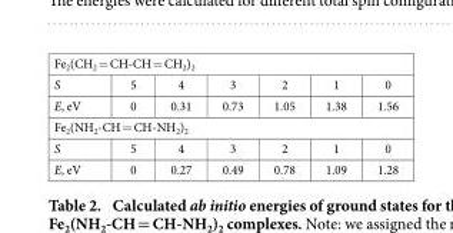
<table><tbody><tr><td colspan="7">Fe<sub>2</sub>(CH<sub>2</sub> = CH-CH = CH<sub>2</sub>)<sub>2</sub></td></tr><tr><td>S</td><td>5</td><td>4</td><td>3</td><td>2</td><td>1</td><td>0</td></tr><tr><td>E, eV</td><td>0</td><td>0.31</td><td>0.73</td><td>1.05</td><td>1.38</td><td>1.56</td></tr><tr><td colspan="7">Fe<sub>2</sub>(NH<sub>2</sub>-CH = CH-NH<sub>2</sub>)<sub>2</sub></td></tr><tr><td>S</td><td>5</td><td>4</td><td>3</td><td>2</td><td>1</td><td>0</td></tr><tr><td>E, eV</td><td>0</td><td>0.27</td><td>0.49</td><td>0.78</td><td>1.09</td><td>1.28</td></tr></tbody></table>